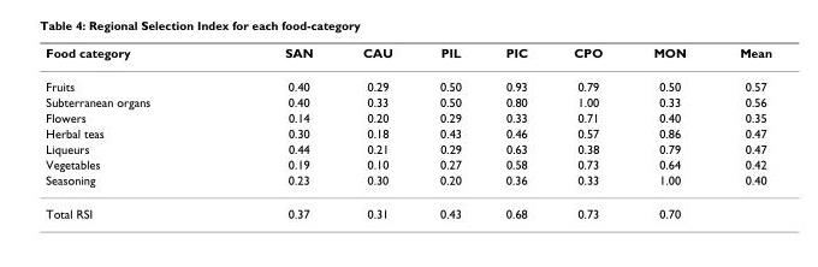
<table><thead><tr><td>Food category</td><td>SAN</td><td>CAU</td><td>PIL</td><td>PIC</td><td>CPO</td><td>MON</td><td>Mean</td></tr></thead><tbody><tr><td>Fruits</td><td>0.40</td><td>0.29</td><td>0.50</td><td>0.93</td><td>0.79</td><td>0.50</td><td>0.57</td></tr><tr><td>Subterranean organs</td><td>0.40</td><td>0.33</td><td>0.50</td><td>0.80</td><td>1.00</td><td>0.33</td><td>0.56</td></tr><tr><td>Flowers</td><td>0.14</td><td>0.20</td><td>0.29</td><td>0.33</td><td>0.71</td><td>0.40</td><td>0.35</td></tr><tr><td>Herbal teas</td><td>0.30</td><td>0.18</td><td>0.43</td><td>0.46</td><td>0.57</td><td>0.86</td><td>0.47</td></tr><tr><td>Liqueurs</td><td>0.44</td><td>0.21</td><td>0.29</td><td>0.63</td><td>0.38</td><td>0.79</td><td>0.47</td></tr><tr><td>Vegetables</td><td>0.19</td><td>0.10</td><td>0.27</td><td>0.58</td><td>0.73</td><td>0.64</td><td>0.42</td></tr><tr><td>Seasoning</td><td>0.23</td><td>0.30</td><td>0.20</td><td>0.36</td><td>0.33</td><td>1.00</td><td>0.40</td></tr><tr><td>Total RSI</td><td>0.37</td><td>0.31</td><td>0.43</td><td>0.68</td><td>0.73</td><td>0.70</td><td></td></tr></tbody></table>